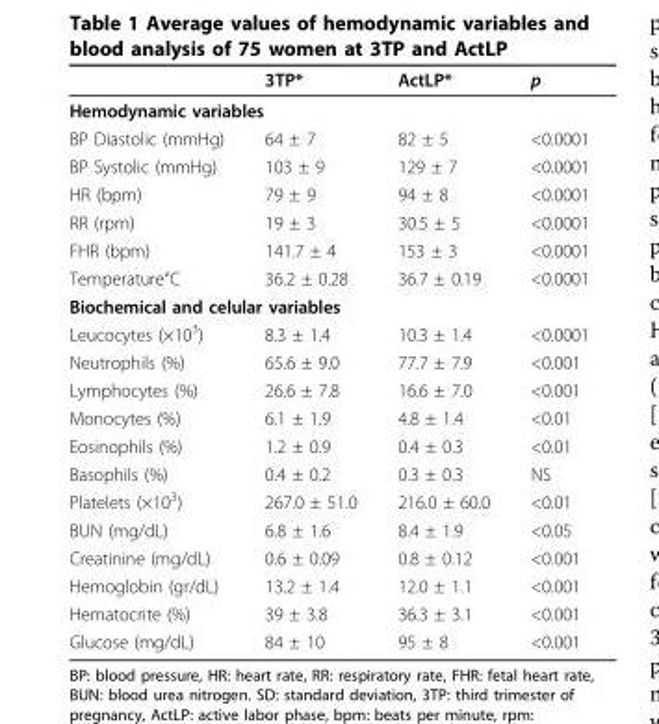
<table><thead><tr><td></td><td>3TP*</td><td>ActLP*</td><td>p</td></tr></thead><tbody><tr><td colspan="4">Hemodynamic variables</td></tr><tr><td>BP Diastolic (mmHg)</td><td>64 ± 7</td><td>82 ± 5</td><td>&lt;0.0001</td></tr><tr><td>BP Systolic (mmHg)</td><td>103 ± 9</td><td>129 ± 7</td><td>&lt;0.0001</td></tr><tr><td>HR (bpm)</td><td>79 ± 9</td><td>94 ± 8</td><td>&lt;0.0001</td></tr><tr><td>RR (rpm)</td><td>19 ± 3</td><td>30.5 ± 5</td><td>&lt;0.0001</td></tr><tr><td>FHR (bpm)</td><td>141.7 ± 4</td><td>153 ± 3</td><td>&lt;0.0001</td></tr><tr><td>Temperature°C</td><td>36.2 ± 0.28</td><td>36.7 ± 0.19</td><td>&lt;0.0001</td></tr><tr><td colspan="4">Biochemical and celular variables</td></tr><tr><td>Leucocytes (×10<sup>3</sup>)</td><td>8.3 ± 1.4</td><td>10.3 ± 1.4</td><td>&lt;0.0001</td></tr><tr><td>Neutrophils (%)</td><td>65.6 ± 9.0</td><td>77.7 ± 7.9</td><td>&lt;0.001</td></tr><tr><td>Lymphocytes (%)</td><td>26.6 ± 7.8</td><td>16.6 ± 7.0</td><td>&lt;0.001</td></tr><tr><td>Monocytes (%)</td><td>6.1 ± 1.9</td><td>4.8 ± 1.4</td><td>&lt;0.01</td></tr><tr><td>Eosinophils (%)</td><td>1.2 ± 0.9</td><td>0.4 ± 0.3</td><td>&lt;0.01</td></tr><tr><td>Basophils (%)</td><td>0.4 ± 0.2</td><td>0.3 ± 0.3</td><td>NS</td></tr><tr><td>Platelets (×10<sup>3</sup>)</td><td>267.0 ± 51.0</td><td>216.0 ± 60.0</td><td>&lt;0.01</td></tr><tr><td>BUN (mg/dL)</td><td>6.8 ± 1.6</td><td>8.4 ± 1.9</td><td>&lt;0.05</td></tr><tr><td>Creatinine (mg/dL)</td><td>0.6 ± 0.09</td><td>0.8 ± 0.12</td><td>&lt;0.001</td></tr><tr><td>Hemoglobin (gr/dL)</td><td>13.2 ± 1.4</td><td>12.0 ± 1.1</td><td>&lt;0.001</td></tr><tr><td>Hematocrite (%)</td><td>39 ± 3.8</td><td>36.3 ± 3.1</td><td>&lt;0.001</td></tr><tr><td>Glucose (mg/dL)</td><td>84 ± 10</td><td>95 ± 8</td><td>&lt;0.001</td></tr></tbody></table>